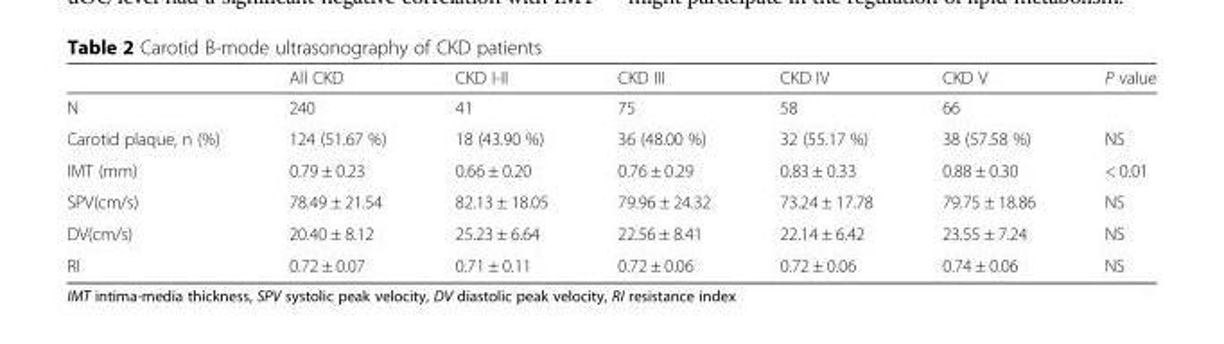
<table><thead><tr><td></td><td>All CKD</td><td>CKD I-II</td><td>CKD III</td><td>CKD IV</td><td>CKD V</td><td>P value</td></tr></thead><tbody><tr><td>N</td><td>240</td><td>41</td><td>75</td><td>58</td><td>66</td><td></td></tr><tr><td>Carotid plaque, n (%)</td><td>124 (51.67 %)</td><td>18 (43.90 %)</td><td>36 (48.00 %)</td><td>32 (55.17 %)</td><td>38 (57.58 %)</td><td>NS</td></tr><tr><td>IMT (mm)</td><td>0.79 ± 0.23</td><td>0.66 ± 0.20</td><td>0.76 ± 0.29</td><td>0.83 ± 0.33</td><td>0.88 ± 0.30</td><td>&lt; 0.01</td></tr><tr><td>SPV(cm/s)</td><td>78.49 ± 21.54</td><td>82.13 ± 18.05</td><td>79.96 ± 24.32</td><td>73.24 ± 17.78</td><td>79.75 ± 18.86</td><td>NS</td></tr><tr><td>DV(cm/s)</td><td>20.40 ± 8.12</td><td>25.23 ± 6.64</td><td>22.56 ± 8.41</td><td>22.14 ± 6.42</td><td>23.55 ± 7.24</td><td>NS</td></tr><tr><td>RI</td><td>0.72 ± 0.07</td><td>0.71 ± 0.11</td><td>0.72 ± 0.06</td><td>0.72 ± 0.06</td><td>0.74 ± 0.06</td><td>NS</td></tr></tbody></table>